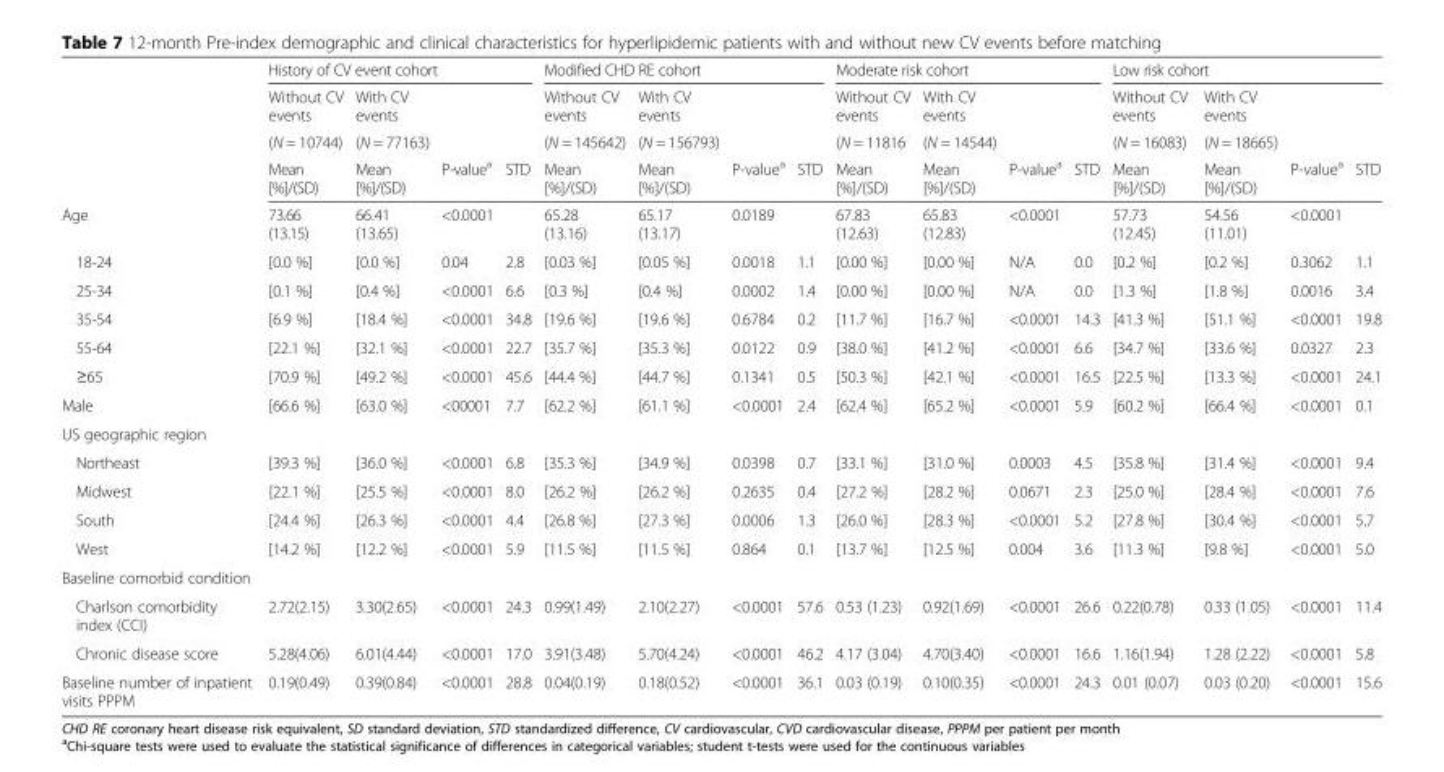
<table><thead><tr><td rowspan="4"></td><td colspan="4">History of CV event cohort</td><td colspan="4">Modified CHD RE cohort</td><td colspan="4">Moderate risk cohort</td><td colspan="4">Low risk cohort</td></tr><tr><td rowspan="3">Without CV events (N = 10744) Mean [%]/(SD)</td><td rowspan="3">With CV events (N = 77163) Mean [%]/(SD)</td><td rowspan="3">P-value<sup>a</sup></td><td rowspan="3">STD</td><td rowspan="3">Without CV events (N = 145642) Mean [%]/(SD)</td><td rowspan="3">With CV events (N = 156793) Mean [%]/(SD)</td><td rowspan="3">P-value<sup>a</sup></td><td rowspan="3">STD</td><td rowspan="3">Without CV events (N = 11816 Mean [%]/(SD)</td><td rowspan="3">With CV events (N = 14544) Mean [%]/(SD)</td><td rowspan="3">P-value<sup>a</sup></td><td rowspan="3">STD</td><td rowspan="3">Without CV events (N = 16083) Mean [%]/(SD)</td><td rowspan="3">With CV events (N = 18665) Mean [%]/(SD)</td><td rowspan="3">P-value<sup>a</sup></td><td rowspan="3">STD</td></tr><tr></tr><tr></tr></thead><tbody><tr><td>Age</td><td>73.66 (13.15)</td><td>66.41 (13.65)</td><td>&lt;0.0001</td><td></td><td>65.28 (13.16)</td><td>65.17 (13.17)</td><td>0.0189</td><td></td><td>67.83 (12.63)</td><td>65.83 (12.83)</td><td>&lt;0.0001</td><td></td><td>57.73 (12.45)</td><td>54.56 (11.01)</td><td>&lt;0.0001</td><td></td></tr><tr><td>18-24</td><td>[0.0 %]</td><td>[0.0 %]</td><td>0.04</td><td>2.8</td><td>[0.03 %]</td><td>[0.05 %]</td><td>0.0018</td><td>1.1</td><td>[0.00 %]</td><td>[0.00 %]</td><td>N/A</td><td>0.0</td><td>[0.2 %]</td><td>[0.2 %]</td><td>0.3062</td><td>1.1</td></tr><tr><td>25-34</td><td>[0.1 %]</td><td>[0.4 %]</td><td>&lt;0.0001</td><td>6.6</td><td>[0.3 %]</td><td>[0.4 %]</td><td>0.0002</td><td>1.4</td><td>[0.00 %]</td><td>[0.00 %]</td><td>N/A</td><td>0.0</td><td>[1.3 %]</td><td>[1.8 %]</td><td>0.0016</td><td>3.4</td></tr><tr><td>35-54</td><td>[6.9 %]</td><td>[18.4 %]</td><td>&lt;0.0001</td><td>34.8</td><td>[19.6 %]</td><td>[19.6 %]</td><td>0.6784</td><td>0.2</td><td>[11.7 %]</td><td>[16.7 %]</td><td>&lt;0.0001</td><td>14.3</td><td>[41.3 %]</td><td>[51.1 %]</td><td>&lt;0.0001</td><td>19.8</td></tr><tr><td>55-64</td><td>[22.1 %]</td><td>[32.1 %]</td><td>&lt;0.0001</td><td>22.7</td><td>[35.7 %]</td><td>[35.3 %]</td><td>0.0122</td><td>0.9</td><td>[38.0 %]</td><td>[41.2 %]</td><td>&lt;0.0001</td><td>6.6</td><td>[34.7 %]</td><td>[33.6 %]</td><td>0.0327</td><td>2.3</td></tr><tr><td>≥65</td><td>[70.9 %]</td><td>[49.2 %]</td><td>&lt;0.0001</td><td>45.6</td><td>[44.4 %]</td><td>[44.7 %]</td><td>0.1341</td><td>0.5</td><td>[50.3 %]</td><td>[42.1 %]</td><td>&lt;0.0001</td><td>16.5</td><td>[22.5 %]</td><td>[13.3 %]</td><td>&lt;0.0001</td><td>24.1</td></tr><tr><td>Male</td><td>[66.6 %]</td><td>[63.0 %]</td><td>&lt;00001</td><td>7.7</td><td>[62.2 %]</td><td>[61.1 %]</td><td>&lt;0.0001</td><td>2.4</td><td>[62.4 %]</td><td>[65.2 %]</td><td>&lt;0.0001</td><td>5.9</td><td>[60.2 %]</td><td>[66.4 %]</td><td>&lt;0.0001</td><td>0.1</td></tr><tr><td colspan="17">US geographic region</td></tr><tr><td>Northeast</td><td>[39.3 %]</td><td>[36.0 %]</td><td>&lt;0.0001</td><td>6.8</td><td>[35.3 %]</td><td>[34.9 %]</td><td>0.0398</td><td>0.7</td><td>[33.1 %]</td><td>[31.0 %]</td><td>0.0003</td><td>4.5</td><td>[35.8 %]</td><td>[31.4 %]</td><td>&lt;0.0001</td><td>9.4</td></tr><tr><td>Midwest</td><td>[22.1 %]</td><td>[25.5 %]</td><td>&lt;0.0001</td><td>8.0</td><td>[26.2 %]</td><td>[26.2 %]</td><td>0.2635</td><td>0.4</td><td>[27.2 %]</td><td>[28.2 %]</td><td>0.0671</td><td>2.3</td><td>[25.0 %]</td><td>[28.4 %]</td><td>&lt;0.0001</td><td>7.6</td></tr><tr><td>South</td><td>[24.4 %]</td><td>[26.3 %]</td><td>&lt;0.0001</td><td>4.4</td><td>[26.8 %]</td><td>[27.3 %]</td><td>0.0006</td><td>1.3</td><td>[26.0 %]</td><td>[28.3 %]</td><td>&lt;0.0001</td><td>5.2</td><td>[27.8 %]</td><td>[30.4 %]</td><td>&lt;0.0001</td><td>5.7</td></tr><tr><td>West</td><td>[14.2 %]</td><td>[12.2 %]</td><td>&lt;0.0001</td><td>5.9</td><td>[11.5 %]</td><td>[11.5 %]</td><td>0.864</td><td>0.1</td><td>[13.7 %]</td><td>[12.5 %]</td><td>0.004</td><td>3.6</td><td>[11.3 %]</td><td>[9.8 %]</td><td>&lt;0.0001</td><td>5.0</td></tr><tr><td colspan="17">Baseline comorbid condition</td></tr><tr><td>Charlson comorbidity index (CCI)</td><td>2.72(2.15)</td><td>3.30(2.65)</td><td>&lt;0.0001</td><td>24.3</td><td>0.99(1.49)</td><td>2.10(2.27)</td><td>&lt;0.0001</td><td>57.6</td><td>0.53 (1.23)</td><td>0.92(1.69)</td><td>&lt;0.0001</td><td>26.6</td><td>0.22(0.78)</td><td>0.33 (1.05)</td><td>&lt;0.0001</td><td>11.4</td></tr><tr><td>Chronic disease score</td><td>5.28(4.06)</td><td>6.01(4.44)</td><td>&lt;0.0001</td><td>17.0</td><td>3.91(3.48)</td><td>5.70(4.24)</td><td>&lt;0.0001</td><td>46.2</td><td>4.17 (3.04)</td><td>4.70(3.40)</td><td>&lt;0.0001</td><td>16.6</td><td>1.16(1.94)</td><td>1.28 (2.22)</td><td>&lt;0.0001</td><td>5.8</td></tr><tr><td>Baseline number of inpatient visits PPPM</td><td>0.19(0.49)</td><td>0.39(0.84)</td><td>&lt;0.0001</td><td>28.8</td><td>0.04(0.19)</td><td>0.18(0.52)</td><td>&lt;0.0001</td><td>36.1</td><td>0.03 (0.19)</td><td>0.10(0.35)</td><td>&lt;0.0001</td><td>24.3</td><td>0.01 (0.07)</td><td>0.03 (0.20)</td><td>&lt;0.0001</td><td>15.6</td></tr></tbody></table>